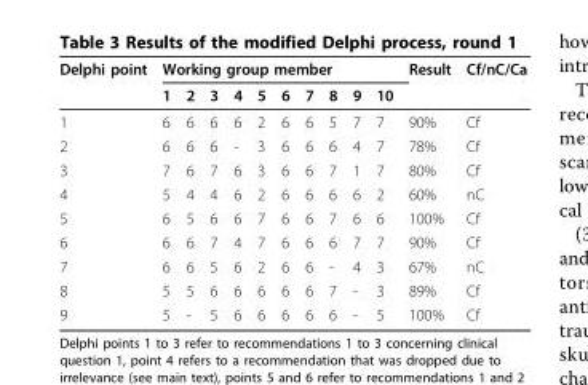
<table><thead><tr><td rowspan="2">Delphi point</td><td colspan="10">Working group member</td><td rowspan="2">Result</td><td rowspan="2">Cf/nC/Ca</td></tr><tr><td>1</td><td>2</td><td>3</td><td>4</td><td>5</td><td>6</td><td>7</td><td>8</td><td>9</td><td>10</td></tr></thead><tbody><tr><td>1</td><td>6</td><td>6</td><td>6</td><td>6</td><td>2</td><td>6</td><td>6</td><td>5</td><td>7</td><td>7</td><td>90%</td><td>Cf</td></tr><tr><td>2</td><td>6</td><td>6</td><td>6</td><td>-</td><td>3</td><td>6</td><td>6</td><td>6</td><td>4</td><td>7</td><td>78%</td><td>Cf</td></tr><tr><td>3</td><td>7</td><td>6</td><td>7</td><td>6</td><td>3</td><td>6</td><td>6</td><td>7</td><td>1</td><td>7</td><td>80%</td><td>Cf</td></tr><tr><td>4</td><td>5</td><td>4</td><td>4</td><td>6</td><td>2</td><td>6</td><td>6</td><td>6</td><td>6</td><td>2</td><td>60%</td><td>nC</td></tr><tr><td>5</td><td>6</td><td>5</td><td>6</td><td>6</td><td>7</td><td>6</td><td>6</td><td>7</td><td>6</td><td>6</td><td>100%</td><td>Cf</td></tr><tr><td>6</td><td>6</td><td>6</td><td>7</td><td>4</td><td>7</td><td>6</td><td>6</td><td>6</td><td>7</td><td>7</td><td>90%</td><td>Cf</td></tr><tr><td>7</td><td>6</td><td>6</td><td>5</td><td>6</td><td>2</td><td>6</td><td>6</td><td>-</td><td>4</td><td>3</td><td>67%</td><td>nC</td></tr><tr><td>8</td><td>5</td><td>5</td><td>6</td><td>6</td><td>6</td><td>6</td><td>6</td><td>7</td><td>-</td><td>3</td><td>89%</td><td>Cf</td></tr><tr><td>9</td><td>5</td><td>-</td><td>5</td><td>6</td><td>6</td><td>6</td><td>6</td><td>6</td><td>-</td><td>5</td><td>100%</td><td>Cf</td></tr></tbody></table>